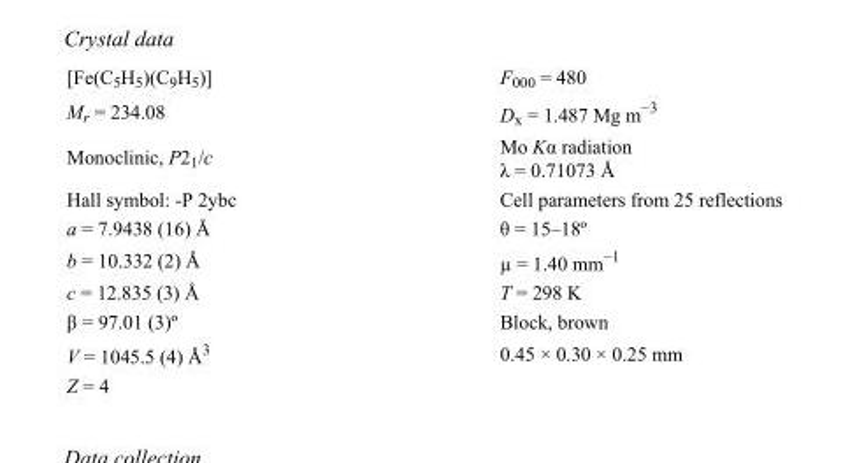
<table><tbody><tr><td>[Fe(C<sub>5</sub>H<sub>5</sub>)(C<sub>9</sub>H<sub>5</sub>)]</td><td>F000 = 480</td></tr><tr><td>M<sub>r</sub> = 234.08</td><td>D<sub>x</sub> = 1.487 Mg m<sup>−3</sup></td></tr><tr><td>Monoclinic, P2<sub>1</sub>/c</td><td>Mo Kα radiation λ = 0.71073 Å</td></tr><tr><td>Hall symbol: -P 2ybc</td><td>Cell parameters from 25 reflections</td></tr><tr><td>a = 7.9438 (16) Å</td><td>θ = 15–18º</td></tr><tr><td>b = 10.332 (2) Å</td><td>µ = 1.40 mm<sup>−1</sup></td></tr><tr><td>c = 12.835 (3) Å</td><td>T = 298 K</td></tr><tr><td>β = 97.01 (3)º</td><td>Block, brown</td></tr><tr><td>V = 1045.5 (4) Å<sup>3</sup></td><td>0.45 × 0.30 × 0.25 mm</td></tr><tr><td>Z = 4</td><td></td></tr></tbody></table>